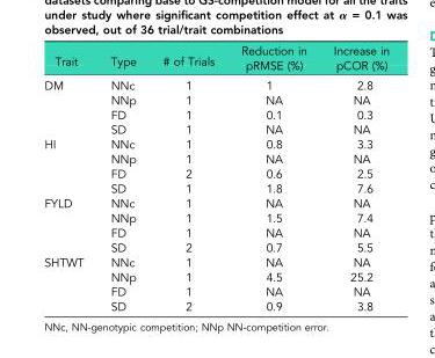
<table><thead><tr><td>Trait</td><td>Type</td><td># of Trials</td><td>Reduction in pRMSE (%)</td><td>Increase in pCOR (%)</td></tr></thead><tbody><tr><td rowspan="4">DM</td><td>NNc</td><td>1</td><td>1</td><td>2.8</td></tr><tr><td>NNp</td><td>1</td><td>NA</td><td>NA</td></tr><tr><td>FD</td><td>1</td><td>0.1</td><td>0.3</td></tr><tr><td>SD</td><td>1</td><td>NA</td><td>NA</td></tr><tr><td rowspan="4">HI</td><td>NNc</td><td>1</td><td>0.8</td><td>3.3</td></tr><tr><td>NNp</td><td>1</td><td>NA</td><td>NA</td></tr><tr><td>FD</td><td>2</td><td>0.6</td><td>2.5</td></tr><tr><td>SD</td><td>1</td><td>1.8</td><td>7.6</td></tr><tr><td rowspan="4">FYLD</td><td>NNc</td><td>1</td><td>NA</td><td>NA</td></tr><tr><td>NNp</td><td>1</td><td>1.5</td><td>7.4</td></tr><tr><td>FD</td><td>1</td><td>NA</td><td>NA</td></tr><tr><td>SD</td><td>2</td><td>0.7</td><td>5.5</td></tr><tr><td rowspan="4">SHTWT</td><td>NNc</td><td>1</td><td>NA</td><td>NA</td></tr><tr><td>NNp</td><td>1</td><td>4.5</td><td>25.2</td></tr><tr><td>FD</td><td>1</td><td>NA</td><td>NA</td></tr><tr><td>SD</td><td>2</td><td>0.9</td><td>3.8</td></tr></tbody></table>